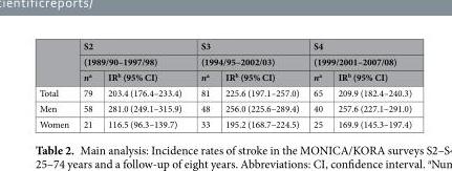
<table><thead><tr><td rowspan="3"></td><td rowspan="2" colspan="2">S2 (1989/90–1997/98)</td><td rowspan="2" colspan="2">S3 (1994/95–2002/03)</td><td rowspan="2" colspan="2">S4 (1999/2001–2007/08)</td></tr><tr></tr><tr><td>n<sup>a</sup></td><td>IR<sup>b</sup> (95% CI)</td><td>n<sup>a</sup></td><td>IR<sup>b</sup> (95% CI)</td><td>n<sup>a</sup></td><td>IR<sup>b</sup> (95% CI)</td></tr></thead><tbody><tr><td>Total</td><td>79</td><td>203.4 (176.4–233.4)</td><td>81</td><td>225.6 (197.1–257.0)</td><td>65</td><td>209.9 (182.4–240.3)</td></tr><tr><td>Men</td><td>58</td><td>281.0 (249.1–315.9)</td><td>48</td><td>256.0 (225.6–289.4)</td><td>40</td><td>257.6 (227.1–291.0)</td></tr><tr><td>Women</td><td>21</td><td>116.5 (96.3–139.7)</td><td>33</td><td>195.2 (168.7–224.5)</td><td>25</td><td>169.9 (145.3–197.4)</td></tr></tbody></table>